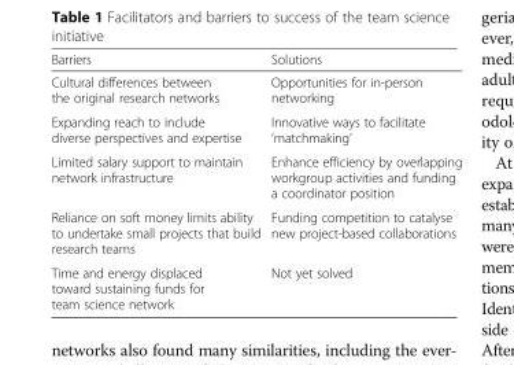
<table><thead><tr><td>Barriers</td><td>Solutions</td></tr></thead><tbody><tr><td>Cultural differences between the original research networks</td><td>Opportunities for in-person networking</td></tr><tr><td>Expanding reach to include diverse perspectives and expertise</td><td>Innovative ways to facilitate ‘matchmaking’</td></tr><tr><td>Limited salary support to maintain network infrastructure</td><td>Enhance efficiency by overlapping workgroup activities and funding a coordinator position</td></tr><tr><td>Reliance on soft money limits ability to undertake small projects that build research teams</td><td>Funding competition to catalyse new project-based collaborations</td></tr><tr><td>Time and energy displaced toward sustaining funds for team science network</td><td>Not yet solved</td></tr></tbody></table>